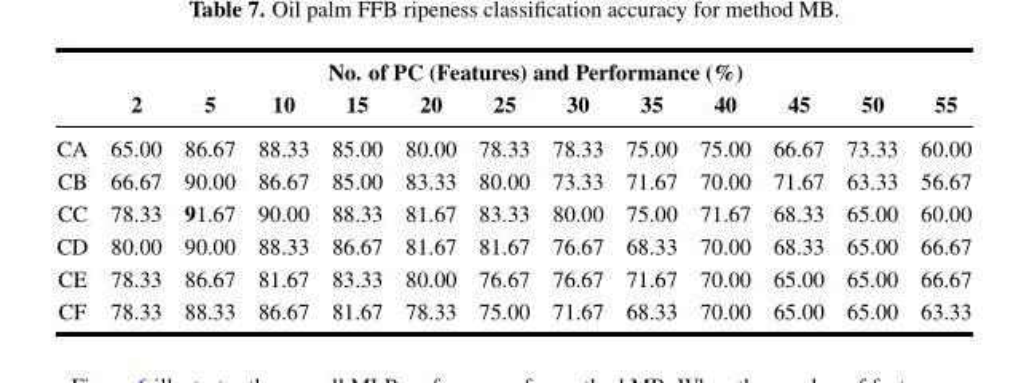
<table><thead><tr><td rowspan="2"></td><td colspan="12">No. of PC (Features) and Performance (%)</td></tr><tr><td>2</td><td>5</td><td>10</td><td>15</td><td>20</td><td>25</td><td>30</td><td>35</td><td>40</td><td>45</td><td>50</td><td>55</td></tr></thead><tbody><tr><td>CA</td><td>65.00</td><td>86.67</td><td>88.33</td><td>85.00</td><td>80.00</td><td>78.33</td><td>78.33</td><td>75.00</td><td>75.00</td><td>66.67</td><td>73.33</td><td>60.00</td></tr><tr><td>CB</td><td>66.67</td><td>90.00</td><td>86.67</td><td>85.00</td><td>83.33</td><td>80.00</td><td>73.33</td><td>71.67</td><td>70.00</td><td>71.67</td><td>63.33</td><td>56.67</td></tr><tr><td>CC</td><td>78.33</td><td>91.67</td><td>90.00</td><td>88.33</td><td>81.67</td><td>83.33</td><td>80.00</td><td>75.00</td><td>71.67</td><td>68.33</td><td>65.00</td><td>60.00</td></tr><tr><td>CD</td><td>80.00</td><td>90.00</td><td>88.33</td><td>86.67</td><td>81.67</td><td>81.67</td><td>76.67</td><td>68.33</td><td>70.00</td><td>68.33</td><td>65.00</td><td>66.67</td></tr><tr><td>CE</td><td>78.33</td><td>86.67</td><td>81.67</td><td>83.33</td><td>80.00</td><td>76.67</td><td>76.67</td><td>71.67</td><td>70.00</td><td>65.00</td><td>65.00</td><td>66.67</td></tr><tr><td>CF</td><td>78.33</td><td>88.33</td><td>86.67</td><td>81.67</td><td>78.33</td><td>75.00</td><td>71.67</td><td>68.33</td><td>70.00</td><td>65.00</td><td>65.00</td><td>63.33</td></tr></tbody></table>